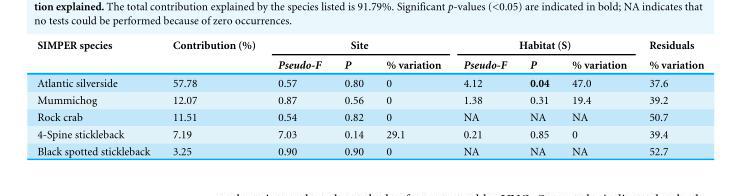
<table><thead><tr><td rowspan="2">SIMPER species</td><td rowspan="2">Contribution (%)</td><td colspan="3">Site</td><td colspan="3">Habitat (S)</td><td rowspan="2">Residuals % variation</td></tr><tr><td>Pseudo-F</td><td>P</td><td>% variation</td><td>Pseudo-F</td><td>P</td><td>% variation</td></tr></thead><tbody><tr><td>Atlantic silverside</td><td>57.78</td><td>0.57</td><td>0.80</td><td>0</td><td>4.12</td><td>0.04</td><td>47.0</td><td>37.6</td></tr><tr><td>Mummichog</td><td>12.07</td><td>0.87</td><td>0.56</td><td>0</td><td>1.38</td><td>0.31</td><td>19.4</td><td>39.2</td></tr><tr><td>Rock crab</td><td>11.51</td><td>0.54</td><td>0.82</td><td>0</td><td>NA</td><td>NA</td><td>NA</td><td>50.7</td></tr><tr><td>4-Spine stickleback</td><td>7.19</td><td>7.03</td><td>0.14</td><td>29.1</td><td>0.21</td><td>0.85</td><td>0</td><td>39.4</td></tr><tr><td>Black spotted stickleback</td><td>3.25</td><td>0.90</td><td>0.90</td><td>0</td><td>NA</td><td>NA</td><td>NA</td><td>52.7</td></tr></tbody></table>